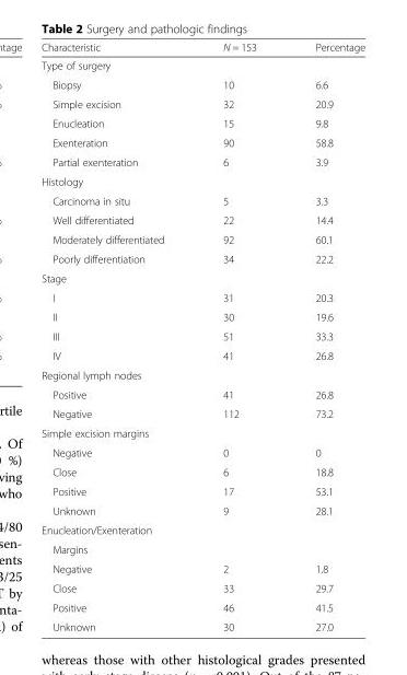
<table><thead><tr><td>Characteristic</td><td>N = 153</td><td>Percentage</td></tr></thead><tbody><tr><td colspan="3">Type of surgery</td></tr><tr><td>Biopsy</td><td>10</td><td>6.6</td></tr><tr><td>Simple excision</td><td>32</td><td>20.9</td></tr><tr><td>Enucleation</td><td>15</td><td>9.8</td></tr><tr><td>Exenteration</td><td>90</td><td>58.8</td></tr><tr><td>Partial exenteration</td><td>6</td><td>3.9</td></tr><tr><td colspan="3">Histology</td></tr><tr><td>Carcinoma in situ</td><td>5</td><td>3.3</td></tr><tr><td>Well differentiated</td><td>22</td><td>14.4</td></tr><tr><td>Moderately differentiated</td><td>92</td><td>60.1</td></tr><tr><td>Poorly differentiation</td><td>34</td><td>22.2</td></tr><tr><td colspan="3">Stage</td></tr><tr><td>I</td><td>31</td><td>20.3</td></tr><tr><td>II</td><td>30</td><td>19.6</td></tr><tr><td>III</td><td>51</td><td>33.3</td></tr><tr><td>IV</td><td>41</td><td>26.8</td></tr><tr><td colspan="3">Regional lymph nodes</td></tr><tr><td>Positive</td><td>41</td><td>26.8</td></tr><tr><td>Negative</td><td>112</td><td>73.2</td></tr><tr><td colspan="3">Simple excision margins</td></tr><tr><td>Negative</td><td>0</td><td>0</td></tr><tr><td>Close</td><td>6</td><td>18.8</td></tr><tr><td>Positive</td><td>17</td><td>53.1</td></tr><tr><td>Unknown</td><td>9</td><td>28.1</td></tr><tr><td colspan="3">Enucleation/Exenteration</td></tr><tr><td colspan="3">Margins</td></tr><tr><td>Negative</td><td>2</td><td>1.8</td></tr><tr><td>Close</td><td>33</td><td>29.7</td></tr><tr><td>Positive</td><td>46</td><td>41.5</td></tr><tr><td>Unknown</td><td>30</td><td>27.0</td></tr></tbody></table>